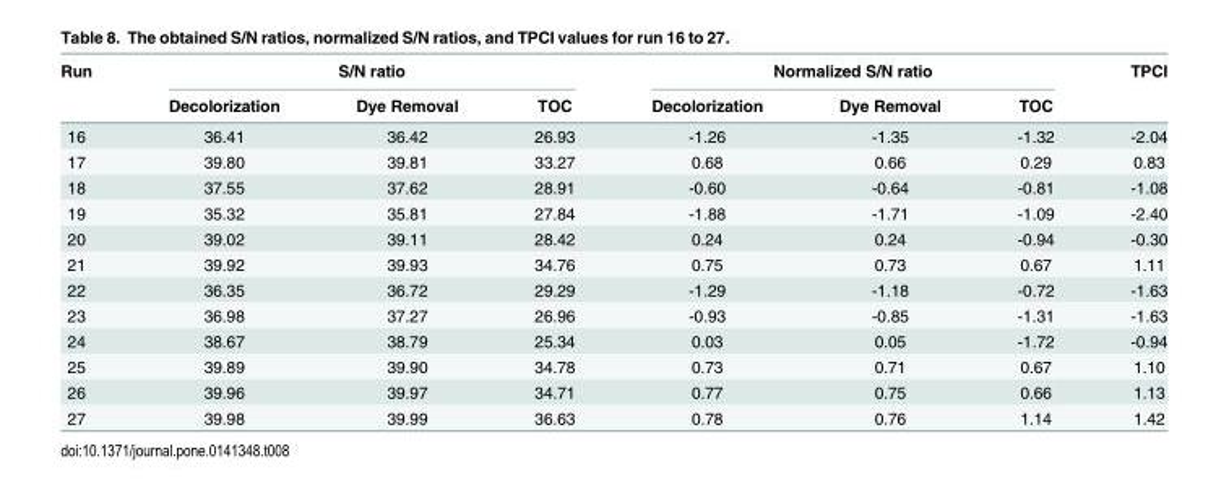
<table><thead><tr><td rowspan="2">Run</td><td colspan="3">S/N ratio</td><td colspan="3">Normalized S/N ratio</td><td rowspan="2">TPCI</td></tr><tr><td>Decolorization</td><td>Dye Removal</td><td>TOC</td><td>Decolorization</td><td>Dye Removal</td><td>TOC</td></tr></thead><tbody><tr><td>16</td><td>36.41</td><td>36.42</td><td>26.93</td><td>-1.26</td><td>-1.35</td><td>-1.32</td><td>-2.04</td></tr><tr><td>17</td><td>39.80</td><td>39.81</td><td>33.27</td><td>0.68</td><td>0.66</td><td>0.29</td><td>0.83</td></tr><tr><td>18</td><td>37.55</td><td>37.62</td><td>28.91</td><td>-0.60</td><td>-0.64</td><td>-0.81</td><td>-1.08</td></tr><tr><td>19</td><td>35.32</td><td>35.81</td><td>27.84</td><td>-1.88</td><td>-1.71</td><td>-1.09</td><td>-2.40</td></tr><tr><td>20</td><td>39.02</td><td>39.11</td><td>28.42</td><td>0.24</td><td>0.24</td><td>-0.94</td><td>-0.30</td></tr><tr><td>21</td><td>39.92</td><td>39.93</td><td>34.76</td><td>0.75</td><td>0.73</td><td>0.67</td><td>1.11</td></tr><tr><td>22</td><td>36.35</td><td>36.72</td><td>29.29</td><td>-1.29</td><td>-1.18</td><td>-0.72</td><td>-1.63</td></tr><tr><td>23</td><td>36.98</td><td>37.27</td><td>26.96</td><td>-0.93</td><td>-0.85</td><td>-1.31</td><td>-1.63</td></tr><tr><td>24</td><td>38.67</td><td>38.79</td><td>25.34</td><td>0.03</td><td>0.05</td><td>-1.72</td><td>-0.94</td></tr><tr><td>25</td><td>39.89</td><td>39.90</td><td>34.78</td><td>0.73</td><td>0.71</td><td>0.67</td><td>1.10</td></tr><tr><td>26</td><td>39.96</td><td>39.97</td><td>34.71</td><td>0.77</td><td>0.75</td><td>0.66</td><td>1.13</td></tr><tr><td>27</td><td>39.98</td><td>39.99</td><td>36.63</td><td>0.78</td><td>0.76</td><td>1.14</td><td>1.42</td></tr></tbody></table>